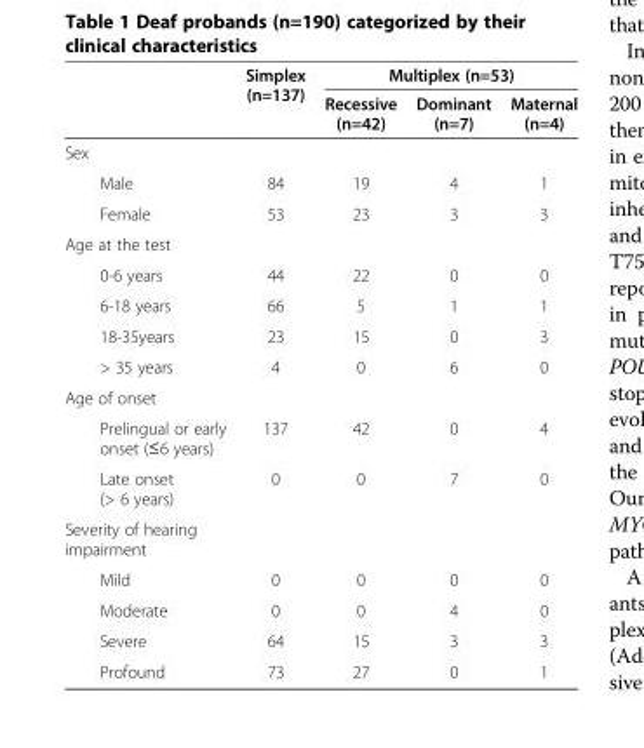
<table><thead><tr><td rowspan="2"></td><td rowspan="2">Simplex (n=137)</td><td colspan="3">Multiplex (n=53)</td></tr><tr><td>Recessive (n=42)</td><td>Dominant (n=7)</td><td>Maternal (n=4)</td></tr></thead><tbody><tr><td colspan="5">Sex</td></tr><tr><td>Male</td><td>84</td><td>19</td><td>4</td><td>1</td></tr><tr><td>Female</td><td>53</td><td>23</td><td>3</td><td>3</td></tr><tr><td colspan="5">Age at the test</td></tr><tr><td>0-6 years</td><td>44</td><td>22</td><td>0</td><td>0</td></tr><tr><td>6-18 years</td><td>66</td><td>5</td><td>1</td><td>1</td></tr><tr><td>18-35years</td><td>23</td><td>15</td><td>0</td><td>3</td></tr><tr><td>&gt; 35 years</td><td>4</td><td>0</td><td>6</td><td>0</td></tr><tr><td colspan="5">Age of onset</td></tr><tr><td>Prelingual or early onset (≤6 years)</td><td>137</td><td>42</td><td>0</td><td>4</td></tr><tr><td>Late onset (&gt; 6 years)</td><td>0</td><td>0</td><td>7</td><td>0</td></tr><tr><td colspan="5">Severity of hearing impairment</td></tr><tr><td>Mild</td><td>0</td><td>0</td><td>0</td><td>0</td></tr><tr><td>Moderate</td><td>0</td><td>0</td><td>4</td><td>0</td></tr><tr><td>Severe</td><td>64</td><td>15</td><td>3</td><td>3</td></tr><tr><td>Profound</td><td>73</td><td>27</td><td>0</td><td>1</td></tr></tbody></table>